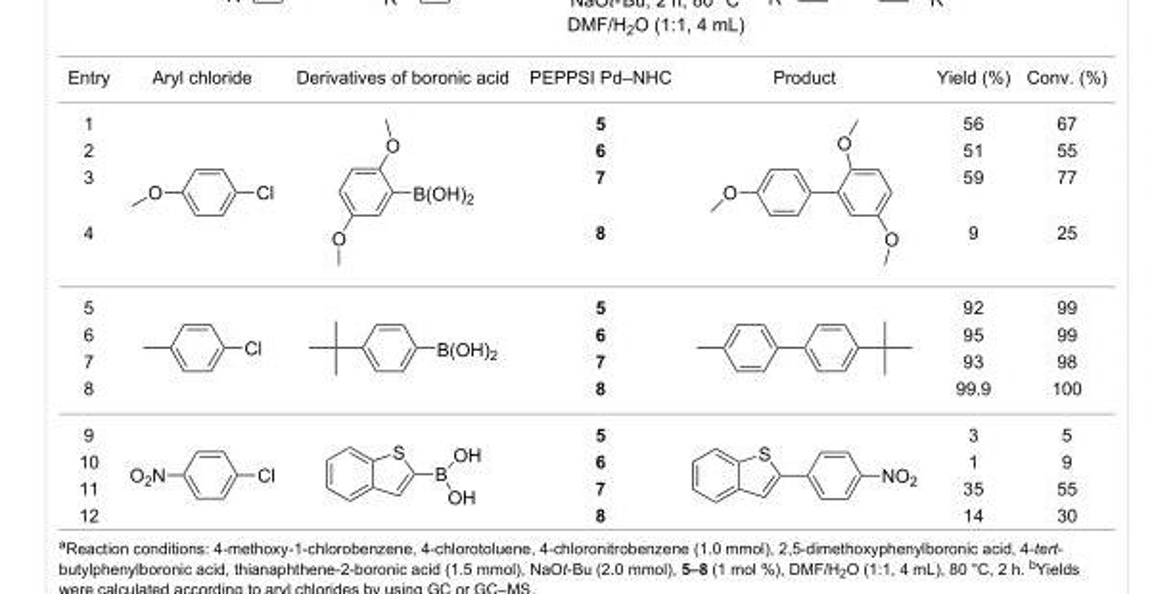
<table><tbody><tr><td>Entry</td><td>Aryl chloride</td><td>Derivatives of boronic acid</td><td>PEPPSI Pd–NHC</td><td>Product</td><td>Yield (%)</td><td>Conv. (%)</td></tr><tr><td>1</td><td rowspan="4"></td><td rowspan="4"></td><td>5</td><td rowspan="4"></td><td>56</td><td>67</td></tr><tr><td>2</td><td>6</td><td>51</td><td>55</td></tr><tr><td>3</td><td>7</td><td>59</td><td>77</td></tr><tr><td>4</td><td>8</td><td>9</td><td>25</td></tr><tr><td>5</td><td rowspan="4"></td><td rowspan="4"></td><td>5</td><td rowspan="4"></td><td>92</td><td>99</td></tr><tr><td>6</td><td>6</td><td>95</td><td>99</td></tr><tr><td>7</td><td>7</td><td>93</td><td>98</td></tr><tr><td>8</td><td>8</td><td>99.9</td><td>100</td></tr><tr><td>9</td><td rowspan="4"></td><td rowspan="4"></td><td>5</td><td rowspan="4"></td><td>3</td><td>5</td></tr><tr><td>10</td><td>6</td><td>1</td><td>9</td></tr><tr><td>11</td><td>7</td><td>35</td><td>55</td></tr><tr><td>12</td><td>8</td><td>14</td><td>30</td></tr></tbody></table>